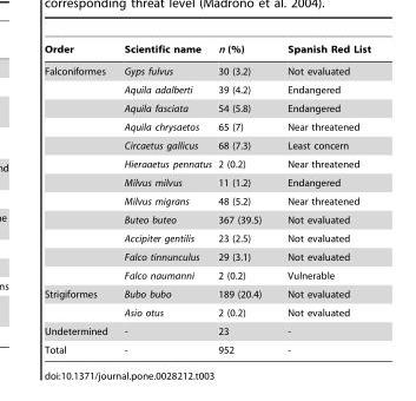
<table><thead><tr><td>Order</td><td>Scientific name</td><td>n (%)</td><td>Spanish Red List</td></tr></thead><tbody><tr><td rowspan="12">Falconiformes</td><td>Gyps fulvus</td><td>30 (3.2)</td><td>Not evaluated</td></tr><tr><td>Aquila adalberti</td><td>39 (4.2)</td><td>Endangered</td></tr><tr><td>Aquila fasciata</td><td>54 (5.8)</td><td>Endangered</td></tr><tr><td>Aquila chrysaetos</td><td>65 (7)</td><td>Near threatened</td></tr><tr><td>Circaetus gallicus</td><td>68 (7.3)</td><td>Least concern</td></tr><tr><td>Hieraaetus pennatus</td><td>2 (0.2)</td><td>Near threatened</td></tr><tr><td>Milvus milvus</td><td>11 (1.2)</td><td>Endangered</td></tr><tr><td>Milvus migrans</td><td>48 (5.2)</td><td>Near threatened</td></tr><tr><td>Buteo buteo</td><td>367 (39.5)</td><td>Not evaluated</td></tr><tr><td>Accipiter gentilis</td><td>23 (2.5)</td><td>Not evaluated</td></tr><tr><td>Falco tinnunculus</td><td>29 (3.1)</td><td>Not evaluated</td></tr><tr><td>Falco naumanni</td><td>2 (0.2)</td><td>Vulnerable</td></tr><tr><td rowspan="2">Strigiformes</td><td>Bubo bubo</td><td>189 (20.4)</td><td>Not evaluated</td></tr><tr><td>Asio otus</td><td>2 (0.2)</td><td>Not evaluated</td></tr><tr><td>Undetermined</td><td>-</td><td>23</td><td>-</td></tr><tr><td>Total</td><td>-</td><td>952</td><td>-</td></tr></tbody></table>